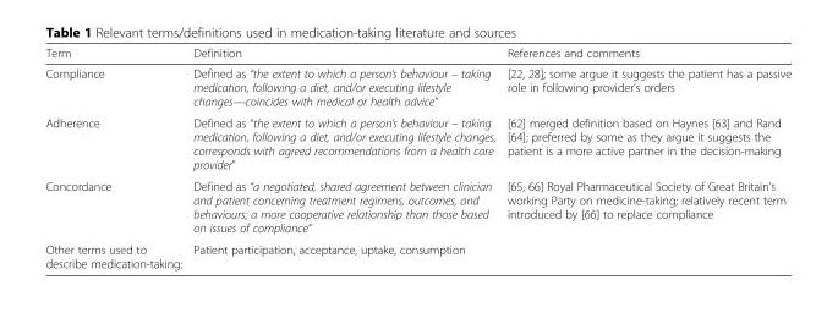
<table><thead><tr><td>Term</td><td>Definition</td><td>References and comments</td></tr></thead><tbody><tr><td>Compliance</td><td>Defined as “the extent to which a person’s behaviour – taking medication, following a diet, and/or executing lifestyle changes—coincides with medical or health advice”</td><td>[22, 28]; some argue it suggests the patient has a passive role in following provider’s orders</td></tr><tr><td>Adherence</td><td>Defined as “the extent to which a person’s behaviour – taking medication, following a diet, and/or executing lifestyle changes, corresponds with agreed recommendations from a health care provider”</td><td>[62] merged definition based on Haynes [63] and Rand [64]; preferred by some as they argue it suggests the patient is a more active partner in the decision-making</td></tr><tr><td>Concordance</td><td>Defined as “a negotiated, shared agreement between clinician and patient concerning treatment regimens, outcomes, and behaviours; a more cooperative relationship than those based on issues of compliance”</td><td>[65, 66] Royal Pharmaceutical Society of Great Britain’s working Party on medicine-taking; relatively recent term introduced by [66] to replace compliance</td></tr><tr><td>Other terms used to describe medication-taking:</td><td colspan="2">Patient participation, acceptance, uptake, consumption</td></tr></tbody></table>